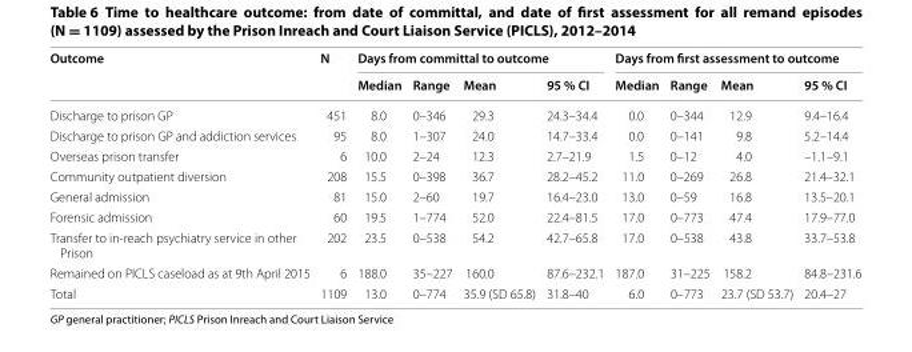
<table><thead><tr><td rowspan="2">Outcome</td><td rowspan="2">N</td><td colspan="4">Days from committal to outcome</td><td colspan="4">Days from first assessment to outcome</td></tr><tr><td>Median</td><td>Range</td><td>Mean</td><td>95 % CI</td><td>Median</td><td>Range</td><td>Mean</td><td>95 % CI</td></tr></thead><tbody><tr><td>Discharge to prison GP</td><td>451</td><td>8.0</td><td>0–346</td><td>29.3</td><td>24.3–34.4</td><td>0.0</td><td>0–344</td><td>12.9</td><td>9.4–16.4</td></tr><tr><td>Discharge to prison GP and addiction services</td><td>95</td><td>8.0</td><td>1–307</td><td>24.0</td><td>14.7–33.4</td><td>0.0</td><td>0–141</td><td>9.8</td><td>5.2–14.4</td></tr><tr><td>Overseas prison transfer</td><td>6</td><td>10.0</td><td>2–24</td><td>12.3</td><td>2.7–21.9</td><td>1.5</td><td>0–12</td><td>4.0</td><td>–1.1–9.1</td></tr><tr><td>Community outpatient diversion</td><td>208</td><td>15.5</td><td>0–398</td><td>36.7</td><td>28.2–45.2</td><td>11.0</td><td>0–269</td><td>26.8</td><td>21.4–32.1</td></tr><tr><td>General admission</td><td>81</td><td>15.0</td><td>2–60</td><td>19.7</td><td>16.4–23.0</td><td>13.0</td><td>0–59</td><td>16.8</td><td>13.5–20.1</td></tr><tr><td>Forensic admission</td><td>60</td><td>19.5</td><td>1–774</td><td>52.0</td><td>22.4–81.5</td><td>17.0</td><td>0–773</td><td>47.4</td><td>17.9–77.0</td></tr><tr><td>Transfer to in-reach psychiatry service in other Prison</td><td>202</td><td>23.5</td><td>0–538</td><td>54.2</td><td>42.7–65.8</td><td>17.0</td><td>0–538</td><td>43.8</td><td>33.7–53.8</td></tr><tr><td>Remained on PICLS caseload as at 9th April 2015</td><td>6</td><td>188.0</td><td>35–227</td><td>160.0</td><td>87.6–232.1</td><td>187.0</td><td>31–225</td><td>158.2</td><td>84.8–231.6</td></tr><tr><td>Total</td><td>1109</td><td>13.0</td><td>0–774</td><td>35.9 (SD 65.8)</td><td>31.8–40</td><td>6.0</td><td>0–773</td><td>23.7 (SD 53.7)</td><td>20.4–27</td></tr></tbody></table>